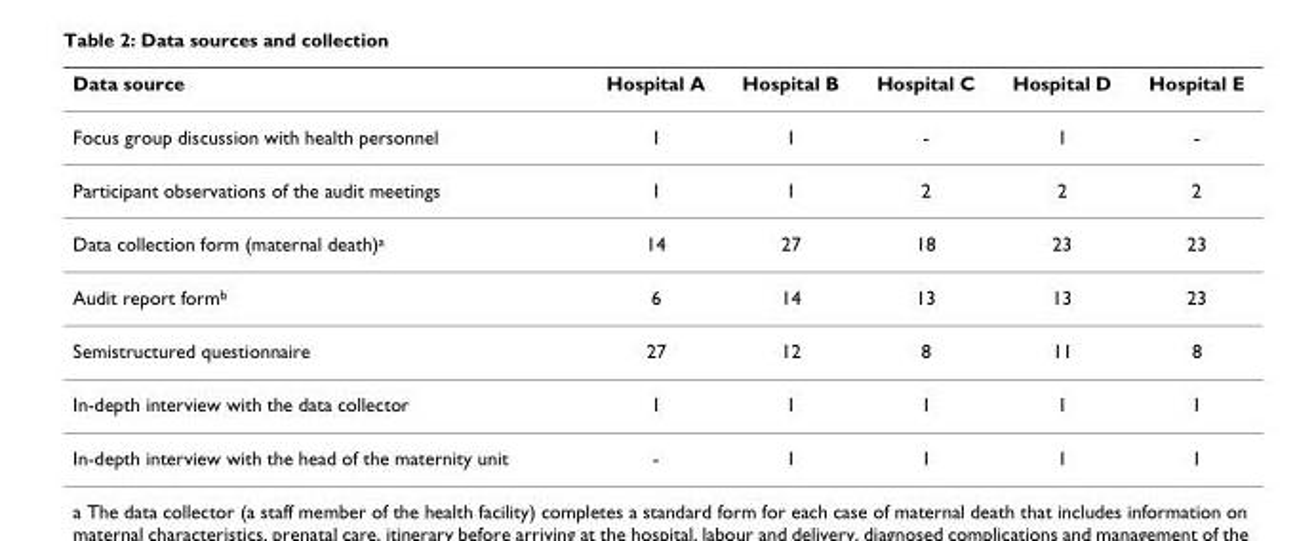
<table><thead><tr><td>Data source</td><td>Hospital A</td><td>Hospital B</td><td>Hospital C</td><td>Hospital D</td><td>Hospital E</td></tr></thead><tbody><tr><td>Focus group discussion with health personnel</td><td>1</td><td>1</td><td>-</td><td>1</td><td>-</td></tr><tr><td>Participant observations of the audit meetings</td><td>1</td><td>1</td><td>2</td><td>2</td><td>2</td></tr><tr><td>Data collection form (maternal death)<sup>a</sup></td><td>14</td><td>27</td><td>18</td><td>23</td><td>23</td></tr><tr><td>Audit report form<sup>b</sup></td><td>6</td><td>14</td><td>13</td><td>13</td><td>23</td></tr><tr><td>Semistructured questionnaire</td><td>27</td><td>12</td><td>8</td><td>11</td><td>8</td></tr><tr><td>In-depth interview with the data collector</td><td>1</td><td>1</td><td>1</td><td>1</td><td>1</td></tr><tr><td>In-depth interview with the head of the maternity unit</td><td>-</td><td>1</td><td>1</td><td>1</td><td>1</td></tr></tbody></table>